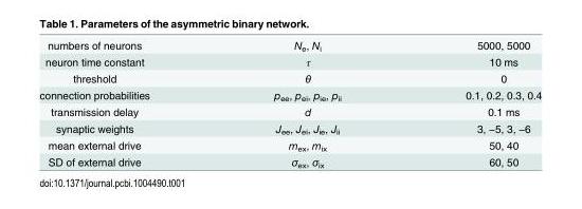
<table><tbody><tr><td>numbers of neurons</td><td>N<sub>e</sub>, N<sub>i</sub></td><td>5000, 5000</td></tr><tr><td>neuron time constant</td><td>τ</td><td>10 ms</td></tr><tr><td>threshold</td><td>θ</td><td>0</td></tr><tr><td>connection probabilities</td><td>p<sub>ee</sub>, p<sub>ei</sub>, p<sub>ie</sub>, p<sub>ii</sub></td><td>0.1, 0.2, 0.3, 0.4</td></tr><tr><td>transmission delay</td><td>d</td><td>0.1 ms</td></tr><tr><td>synaptic weights</td><td>J<sub>ee</sub>, J<sub>ei</sub>, J<sub>ie</sub>, J<sub>ii</sub></td><td>3, −5, 3, −6</td></tr><tr><td>mean external drive</td><td>m<sub>ex</sub>, m<sub>ix</sub></td><td>50, 40</td></tr><tr><td>SD of external drive</td><td>σ<sub>ex</sub>, σ<sub>ix</sub></td><td>60, 50</td></tr></tbody></table>